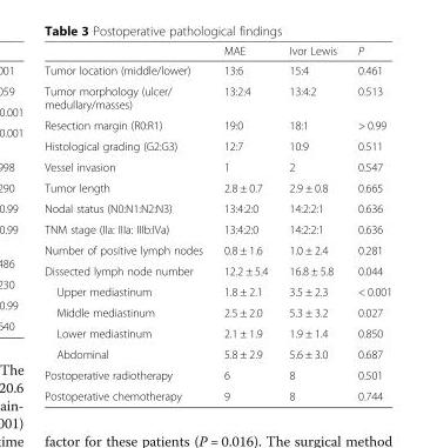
<table><thead><tr><td></td><td>MAE</td><td>Ivor Lewis</td><td>P</td></tr></thead><tbody><tr><td>Tumor location (middle/lower)</td><td>13:6</td><td>15:4</td><td>0.461</td></tr><tr><td>Tumor morphology (ulcer/ medullary/masses)</td><td>13:2:4</td><td>13:4:2</td><td>0.513</td></tr><tr><td>Resection margin (R0:R1)</td><td>19:0</td><td>18:1</td><td>&gt; 0.99</td></tr><tr><td>Histological grading (G2:G3)</td><td>12:7</td><td>10:9</td><td>0.511</td></tr><tr><td>Vessel invasion</td><td>1</td><td>2</td><td>0.547</td></tr><tr><td>Tumor length</td><td>2.8 ± 0.7</td><td>2.9 ± 0.8</td><td>0.665</td></tr><tr><td>Nodal status (N0:N1:N2:N3)</td><td>13:4:2:0</td><td>14:2:2:1</td><td>0.636</td></tr><tr><td>TNM stage (IIa: IIIa: IIIb:IVa)</td><td>13:4:2:0</td><td>14:2:2:1</td><td>0.636</td></tr><tr><td>Number of positive lymph nodes</td><td>0.8 ± 1.6</td><td>1.0 ± 2.4</td><td>0.281</td></tr><tr><td>Dissected lymph node number</td><td>12.2 ± 5.4</td><td>16.8 ± 5.8</td><td>0.044</td></tr><tr><td>Upper mediastinum</td><td>1.8 ± 2.1</td><td>3.5 ± 2.3</td><td>&lt; 0.001</td></tr><tr><td>Middle mediastinum</td><td>2.5 ± 2.0</td><td>5.3 ± 3.2</td><td>0.027</td></tr><tr><td>Lower mediastinum</td><td>2.1 ± 1.9</td><td>1.9 ± 1.4</td><td>0.850</td></tr><tr><td>Abdominal</td><td>5.8 ± 2.9</td><td>5.6 ± 3.0</td><td>0.687</td></tr><tr><td>Postoperative radiotherapy</td><td>6</td><td>8</td><td>0.501</td></tr><tr><td>Postoperative chemotherapy</td><td>9</td><td>8</td><td>0.744</td></tr></tbody></table>